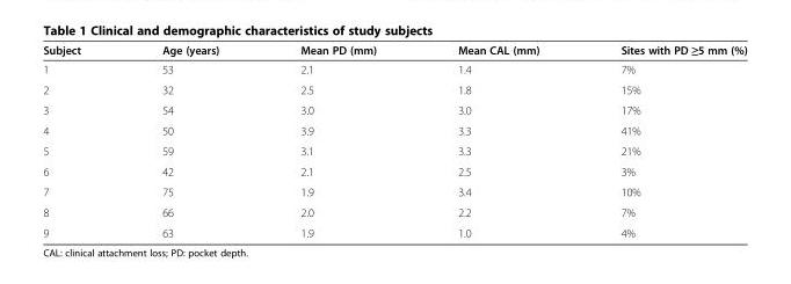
<table><thead><tr><td>Subject</td><td>Age (years)</td><td>Mean PD (mm)</td><td>Mean CAL (mm)</td><td>Sites with PD ≥5 mm (%)</td></tr></thead><tbody><tr><td>1</td><td>53</td><td>2.1</td><td>1.4</td><td>7%</td></tr><tr><td>2</td><td>32</td><td>2.5</td><td>1.8</td><td>15%</td></tr><tr><td>3</td><td>54</td><td>3.0</td><td>3.0</td><td>17%</td></tr><tr><td>4</td><td>50</td><td>3.9</td><td>3.3</td><td>41%</td></tr><tr><td>5</td><td>59</td><td>3.1</td><td>3.3</td><td>21%</td></tr><tr><td>6</td><td>42</td><td>2.1</td><td>2.5</td><td>3%</td></tr><tr><td>7</td><td>75</td><td>1.9</td><td>3.4</td><td>10%</td></tr><tr><td>8</td><td>66</td><td>2.0</td><td>2.2</td><td>7%</td></tr><tr><td>9</td><td>63</td><td>1.9</td><td>1.0</td><td>4%</td></tr></tbody></table>